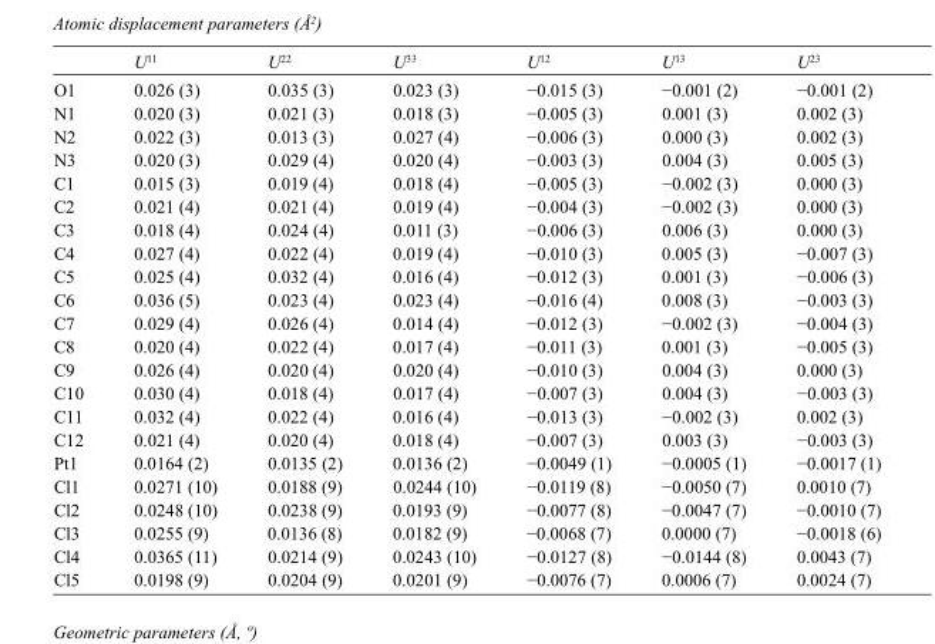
<table><thead><tr><td></td><td>U<sup>11</sup></td><td>U<sup>22</sup></td><td>U<sup>33</sup></td><td>U<sup>12</sup></td><td>U<sup>13</sup></td><td>U<sup>23</sup></td></tr></thead><tbody><tr><td>O1</td><td>0.026 (3)</td><td>0.035 (3)</td><td>0.023 (3)</td><td>−0.015 (3)</td><td>−0.001 (2)</td><td>−0.001 (2)</td></tr><tr><td>N1</td><td>0.020 (3)</td><td>0.021 (3)</td><td>0.018 (3)</td><td>−0.005 (3)</td><td>0.001 (3)</td><td>0.002 (3)</td></tr><tr><td>N2</td><td>0.022 (3)</td><td>0.013 (3)</td><td>0.027 (4)</td><td>−0.006 (3)</td><td>0.000 (3)</td><td>0.002 (3)</td></tr><tr><td>N3</td><td>0.020 (3)</td><td>0.029 (4)</td><td>0.020 (4)</td><td>−0.003 (3)</td><td>0.004 (3)</td><td>0.005 (3)</td></tr><tr><td>C1</td><td>0.015 (3)</td><td>0.019 (4)</td><td>0.018 (4)</td><td>−0.005 (3)</td><td>−0.002 (3)</td><td>0.000 (3)</td></tr><tr><td>C2</td><td>0.021 (4)</td><td>0.021 (4)</td><td>0.019 (4)</td><td>−0.004 (3)</td><td>−0.002 (3)</td><td>0.000 (3)</td></tr><tr><td>C3</td><td>0.018 (4)</td><td>0.024 (4)</td><td>0.011 (3)</td><td>−0.006 (3)</td><td>0.006 (3)</td><td>0.000 (3)</td></tr><tr><td>C4</td><td>0.027 (4)</td><td>0.022 (4)</td><td>0.019 (4)</td><td>−0.010 (3)</td><td>0.005 (3)</td><td>−0.007 (3)</td></tr><tr><td>C5</td><td>0.025 (4)</td><td>0.032 (4)</td><td>0.016 (4)</td><td>−0.012 (3)</td><td>0.001 (3)</td><td>−0.006 (3)</td></tr><tr><td>C6</td><td>0.036 (5)</td><td>0.023 (4)</td><td>0.023 (4)</td><td>−0.016 (4)</td><td>0.008 (3)</td><td>−0.003 (3)</td></tr><tr><td>C7</td><td>0.029 (4)</td><td>0.026 (4)</td><td>0.014 (4)</td><td>−0.012 (3)</td><td>−0.002 (3)</td><td>−0.004 (3)</td></tr><tr><td>C8</td><td>0.020 (4)</td><td>0.022 (4)</td><td>0.017 (4)</td><td>−0.011 (3)</td><td>0.001 (3)</td><td>−0.005 (3)</td></tr><tr><td>C9</td><td>0.026 (4)</td><td>0.020 (4)</td><td>0.020 (4)</td><td>−0.010 (3)</td><td>0.004 (3)</td><td>0.000 (3)</td></tr><tr><td>C10</td><td>0.030 (4)</td><td>0.018 (4)</td><td>0.017 (4)</td><td>−0.007 (3)</td><td>0.004 (3)</td><td>−0.003 (3)</td></tr><tr><td>C11</td><td>0.032 (4)</td><td>0.022 (4)</td><td>0.016 (4)</td><td>−0.013 (3)</td><td>−0.002 (3)</td><td>0.002 (3)</td></tr><tr><td>C12</td><td>0.021 (4)</td><td>0.020 (4)</td><td>0.018 (4)</td><td>−0.007 (3)</td><td>0.003 (3)</td><td>−0.003 (3)</td></tr><tr><td>Pt1</td><td>0.0164 (2)</td><td>0.0135 (2)</td><td>0.0136 (2)</td><td>−0.0049 (1)</td><td>−0.0005 (1)</td><td>−0.0017 (1)</td></tr><tr><td>Cl1</td><td>0.0271 (10)</td><td>0.0188 (9)</td><td>0.0244 (10)</td><td>−0.0119 (8)</td><td>−0.0050 (7)</td><td>0.0010 (7)</td></tr><tr><td>Cl2</td><td>0.0248 (10)</td><td>0.0238 (9)</td><td>0.0193 (9)</td><td>−0.0077 (8)</td><td>−0.0047 (7)</td><td>−0.0010 (7)</td></tr><tr><td>Cl3</td><td>0.0255 (9)</td><td>0.0136 (8)</td><td>0.0182 (9)</td><td>−0.0068 (7)</td><td>0.0000 (7)</td><td>−0.0018 (6)</td></tr><tr><td>Cl4</td><td>0.0365 (11)</td><td>0.0214 (9)</td><td>0.0243 (10)</td><td>−0.0127 (8)</td><td>−0.0144 (8)</td><td>0.0043 (7)</td></tr><tr><td>Cl5</td><td>0.0198 (9)</td><td>0.0204 (9)</td><td>0.0201 (9)</td><td>−0.0076 (7)</td><td>0.0006 (7)</td><td>0.0024 (7)</td></tr></tbody></table>